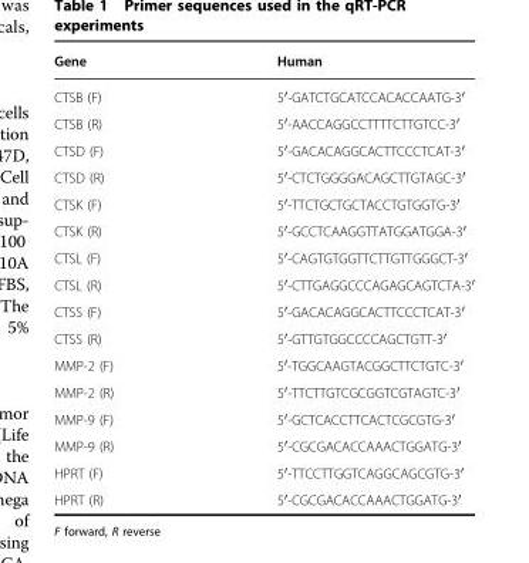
<table><thead><tr><td>Gene</td><td>Human</td></tr></thead><tbody><tr><td>CTSB (F)</td><td>5′-GATCTGCATCCACACCAATG-3′</td></tr><tr><td>CTSB (R)</td><td>5′-AACCAGGCCTTTTCTTGTCC-3′</td></tr><tr><td>CTSD (F)</td><td>5′-GACACAGGCACTTCCCTCAT-3′</td></tr><tr><td>CTSD (R)</td><td>5′-CTCTGGGGACAGCTTGTAGC-3′</td></tr><tr><td>CTSK (F)</td><td>5′-TTCTGCTGCTACCTGTGGTG-3′</td></tr><tr><td>CTSK (R)</td><td>5′-GCCTCAAGGTTATGGATGGA-3′</td></tr><tr><td>CTSL (F)</td><td>5′-CAGTGTGGTTCTTGTTGGGCT-3′</td></tr><tr><td>CTSL (R)</td><td>5′-CTTGAGGCCCAGAGCAGTCTA-3′</td></tr><tr><td>CTSS (F)</td><td>5′-GACACAGGCACTTCCCTCAT-3′</td></tr><tr><td>CTSS (R)</td><td>5′-GTTGTGGCCCCAGCTGTT-3′</td></tr><tr><td>MMP-2 (F)</td><td>5′-TGGCAAGTACGGCTTCTGTC-3′</td></tr><tr><td>MMP-2 (R)</td><td>5′-TTCTTGTCGCGGTCGTAGTC-3′</td></tr><tr><td>MMP-9 (F)</td><td>5′-GCTCACCTTCACTCGCGTG-3′</td></tr><tr><td>MMP-9 (R)</td><td>5′-CGCGACACCAAACTGGATG-3′</td></tr><tr><td>HPRT (F)</td><td>5′-TTCCTTGGTCAGGCAGCGTG-3′</td></tr><tr><td>HPRT (R)</td><td>5′-CGCGACACCAAACTGGATG-3′</td></tr></tbody></table>